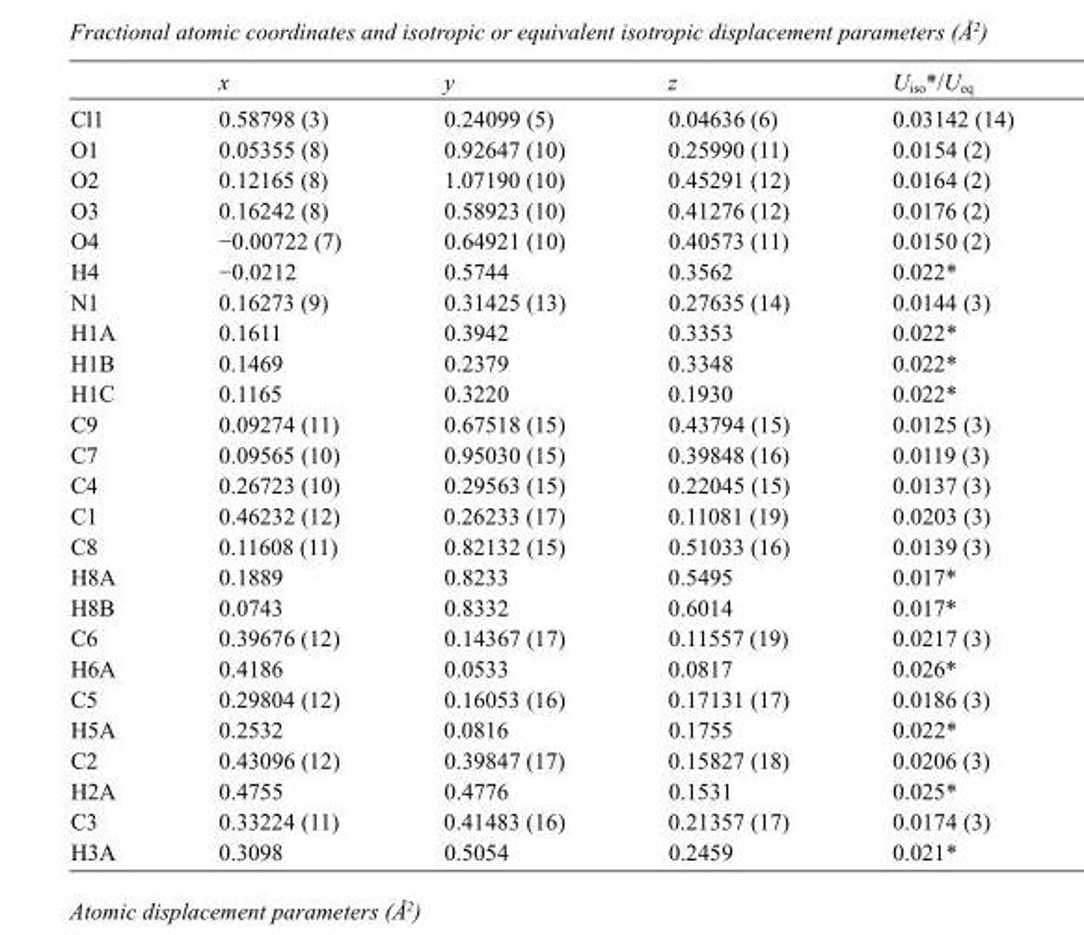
<table><thead><tr><td></td><td>x</td><td>y</td><td>z</td><td>U<sub>iso</sub>*/U<sub>eq</sub></td></tr></thead><tbody><tr><td>Cl1</td><td>0.58798 (3)</td><td>0.24099 (5)</td><td>0.04636 (6)</td><td>0.03142 (14)</td></tr><tr><td>O1</td><td>0.05355 (8)</td><td>0.92647 (10)</td><td>0.25990 (11)</td><td>0.0154 (2)</td></tr><tr><td>O2</td><td>0.12165 (8)</td><td>1.07190 (10)</td><td>0.45291 (12)</td><td>0.0164 (2)</td></tr><tr><td>O3</td><td>0.16242 (8)</td><td>0.58923 (10)</td><td>0.41276 (12)</td><td>0.0176 (2)</td></tr><tr><td>O4</td><td>−0.00722 (7)</td><td>0.64921 (10)</td><td>0.40573 (11)</td><td>0.0150 (2)</td></tr><tr><td>H4</td><td>−0.0212</td><td>0.5744</td><td>0.3562</td><td>0.022*</td></tr><tr><td>N1</td><td>0.16273 (9)</td><td>0.31425 (13)</td><td>0.27635 (14)</td><td>0.0144 (3)</td></tr><tr><td>H1A</td><td>0.1611</td><td>0.3942</td><td>0.3353</td><td>0.022*</td></tr><tr><td>H1B</td><td>0.1469</td><td>0.2379</td><td>0.3348</td><td>0.022*</td></tr><tr><td>H1C</td><td>0.1165</td><td>0.3220</td><td>0.1930</td><td>0.022*</td></tr><tr><td>C9</td><td>0.09274 (11)</td><td>0.67518 (15)</td><td>0.43794 (15)</td><td>0.0125 (3)</td></tr><tr><td>C7</td><td>0.09565 (10)</td><td>0.95030 (15)</td><td>0.39848 (16)</td><td>0.0119 (3)</td></tr><tr><td>C4</td><td>0.26723 (10)</td><td>0.29563 (15)</td><td>0.22045 (15)</td><td>0.0137 (3)</td></tr><tr><td>C1</td><td>0.46232 (12)</td><td>0.26233 (17)</td><td>0.11081 (19)</td><td>0.0203 (3)</td></tr><tr><td>C8</td><td>0.11608 (11)</td><td>0.82132 (15)</td><td>0.51033 (16)</td><td>0.0139 (3)</td></tr><tr><td>H8A</td><td>0.1889</td><td>0.8233</td><td>0.5495</td><td>0.017*</td></tr><tr><td>H8B</td><td>0.0743</td><td>0.8332</td><td>0.6014</td><td>0.017*</td></tr><tr><td>C6</td><td>0.39676 (12)</td><td>0.14367 (17)</td><td>0.11557 (19)</td><td>0.0217 (3)</td></tr><tr><td>H6A</td><td>0.4186</td><td>0.0533</td><td>0.0817</td><td>0.026*</td></tr><tr><td>C5</td><td>0.29804 (12)</td><td>0.16053 (16)</td><td>0.17131 (17)</td><td>0.0186 (3)</td></tr><tr><td>H5A</td><td>0.2532</td><td>0.0816</td><td>0.1755</td><td>0.022*</td></tr><tr><td>C2</td><td>0.43096 (12)</td><td>0.39847 (17)</td><td>0.15827 (18)</td><td>0.0206 (3)</td></tr><tr><td>H2A</td><td>0.4755</td><td>0.4776</td><td>0.1531</td><td>0.025*</td></tr><tr><td>C3</td><td>0.33224 (11)</td><td>0.41483 (16)</td><td>0.21357 (17)</td><td>0.0174 (3)</td></tr><tr><td>H3A</td><td>0.3098</td><td>0.5054</td><td>0.2459</td><td>0.021*</td></tr></tbody></table>